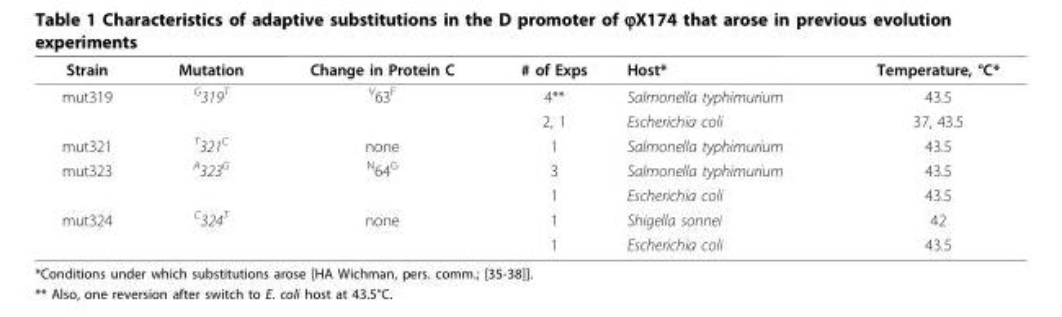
<table><thead><tr><td>Strain</td><td>Mutation</td><td>Change in Protein C</td><td># of Exps</td><td>Host*</td><td>Temperature, °C*</td></tr></thead><tbody><tr><td rowspan="2">mut319</td><td><sup>G</sup>319<sup>T</sup></td><td><sup>V</sup>63<sup>F</sup></td><td>4**</td><td>Salmonella typhimurium</td><td>43.5</td></tr><tr><td></td><td></td><td>2, 1</td><td>Escherichia coli</td><td>37, 43.5</td></tr><tr><td>mut321</td><td><sup>T</sup>321<sup>C</sup></td><td>none</td><td>1</td><td>Salmonella typhimurium</td><td>43.5</td></tr><tr><td rowspan="2">mut323</td><td><sup>A</sup>323<sup>G</sup></td><td><sup>N</sup>64<sup>G</sup></td><td>3</td><td>Salmonella typhimurium</td><td>43.5</td></tr><tr><td></td><td></td><td>1</td><td>Escherichia coli</td><td>43.5</td></tr><tr><td rowspan="2">mut324</td><td><sup>C</sup>324<sup>T</sup></td><td>none</td><td>1</td><td>Shigella sonnei</td><td>42</td></tr><tr><td></td><td></td><td>1</td><td>Escherichia coli</td><td>43.5</td></tr></tbody></table>